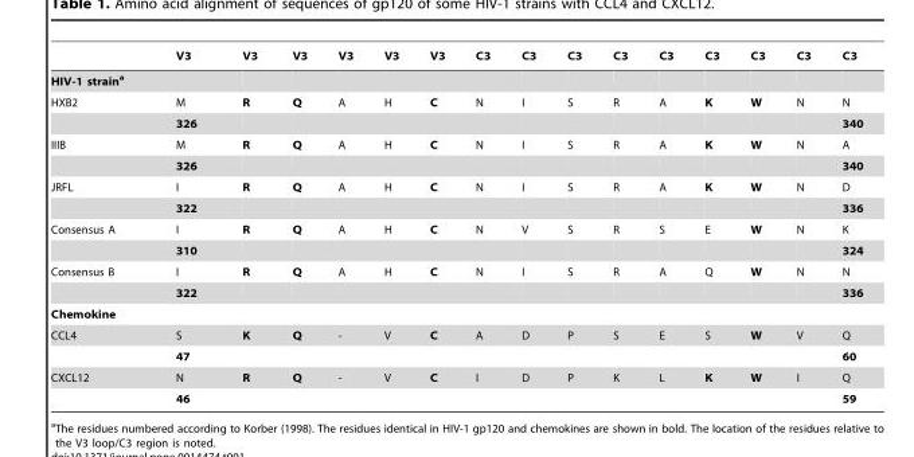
<table><thead><tr><td></td><td>V3</td><td>V3</td><td>V3</td><td>V3</td><td>V3</td><td>V3</td><td>C3</td><td>C3</td><td>C3</td><td>C3</td><td>C3</td><td>C3</td><td>C3</td><td>C3</td><td>C3</td></tr></thead><tbody><tr><td colspan="16">HIV-1 straina</td></tr><tr><td rowspan="2">HXB2</td><td>M</td><td>R</td><td>Q</td><td>A</td><td>H</td><td>C</td><td>N</td><td>I</td><td>S</td><td>R</td><td>A</td><td>K</td><td>W</td><td>N</td><td>N</td></tr><tr><td>326</td><td></td><td></td><td></td><td></td><td></td><td></td><td></td><td></td><td></td><td></td><td></td><td></td><td></td><td>340</td></tr><tr><td rowspan="2">IIIB</td><td>M</td><td>R</td><td>Q</td><td>A</td><td>H</td><td>C</td><td>N</td><td>I</td><td>S</td><td>R</td><td>A</td><td>K</td><td>W</td><td>N</td><td>A</td></tr><tr><td>326</td><td></td><td></td><td></td><td></td><td></td><td></td><td></td><td></td><td></td><td></td><td></td><td></td><td></td><td>340</td></tr><tr><td rowspan="2">JRFL</td><td>I</td><td>R</td><td>Q</td><td>A</td><td>H</td><td>C</td><td>N</td><td>I</td><td>S</td><td>R</td><td>A</td><td>K</td><td>W</td><td>N</td><td>D</td></tr><tr><td>322</td><td></td><td></td><td></td><td></td><td></td><td></td><td></td><td></td><td></td><td></td><td></td><td></td><td></td><td>336</td></tr><tr><td rowspan="2">Consensus A</td><td>I</td><td>R</td><td>Q</td><td>A</td><td>H</td><td>C</td><td>N</td><td>V</td><td>S</td><td>R</td><td>S</td><td>E</td><td>W</td><td>N</td><td>K</td></tr><tr><td>310</td><td></td><td></td><td></td><td></td><td></td><td></td><td></td><td></td><td></td><td></td><td></td><td></td><td></td><td>324</td></tr><tr><td rowspan="2">Consensus B</td><td>I</td><td>R</td><td>Q</td><td>A</td><td>H</td><td>C</td><td>N</td><td>I</td><td>S</td><td>R</td><td>A</td><td>Q</td><td>W</td><td>N</td><td>N</td></tr><tr><td>322</td><td></td><td></td><td></td><td></td><td></td><td></td><td></td><td></td><td></td><td></td><td></td><td></td><td></td><td>336</td></tr><tr><td colspan="16">Chemokine</td></tr><tr><td rowspan="2">CCL4</td><td>S</td><td>K</td><td>Q</td><td>-</td><td>V</td><td>C</td><td>A</td><td>D</td><td>P</td><td>S</td><td>E</td><td>S</td><td>W</td><td>V</td><td>Q</td></tr><tr><td>47</td><td></td><td></td><td></td><td></td><td></td><td></td><td></td><td></td><td></td><td></td><td></td><td></td><td></td><td>60</td></tr><tr><td rowspan="2">CXCL12</td><td>N</td><td>R</td><td>Q</td><td>-</td><td>V</td><td>C</td><td>I</td><td>D</td><td>P</td><td>K</td><td>L</td><td>K</td><td>W</td><td>I</td><td>Q</td></tr><tr><td>46</td><td></td><td></td><td></td><td></td><td></td><td></td><td></td><td></td><td></td><td></td><td></td><td></td><td></td><td>59</td></tr></tbody></table>